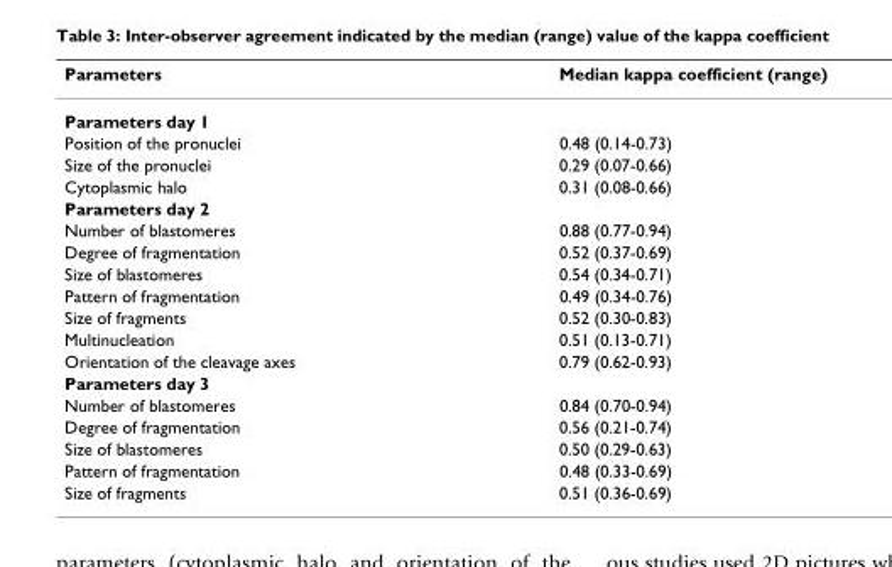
<table><thead><tr><td>Parameters</td><td>Median kappa coefficient (range)</td></tr></thead><tbody><tr><td colspan="2">Parameters day 1</td></tr><tr><td>Position of the pronuclei</td><td>0.48 (0.14-0.73)</td></tr><tr><td>Size of the pronuclei</td><td>0.29 (0.07-0.66)</td></tr><tr><td>Cytoplasmic halo</td><td>0.31 (0.08-0.66)</td></tr><tr><td colspan="2">Parameters day 2</td></tr><tr><td>Number of blastomeres</td><td>0.88 (0.77-0.94)</td></tr><tr><td>Degree of fragmentation</td><td>0.52 (0.37-0.69)</td></tr><tr><td>Size of blastomeres</td><td>0.54 (0.34-0.71)</td></tr><tr><td>Pattern of fragmentation</td><td>0.49 (0.34-0.76)</td></tr><tr><td>Size of fragments</td><td>0.52 (0.30-0.83)</td></tr><tr><td>Multinucleation</td><td>0.51 (0.13-0.71)</td></tr><tr><td>Orientation of the cleavage axes</td><td>0.79 (0.62-0.93)</td></tr><tr><td colspan="2">Parameters day 3</td></tr><tr><td>Number of blastomeres</td><td>0.84 (0.70-0.94)</td></tr><tr><td>Degree of fragmentation</td><td>0.56 (0.21-0.74)</td></tr><tr><td>Size of blastomeres</td><td>0.50 (0.29-0.63)</td></tr><tr><td>Pattern of fragmentation</td><td>0.48 (0.33-0.69)</td></tr><tr><td>Size of fragments</td><td>0.51 (0.36-0.69)</td></tr></tbody></table>